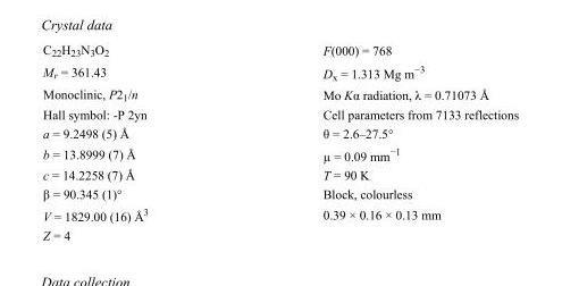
<table><tbody><tr><td>C<sub>22</sub>H<sub>23</sub>N<sub>3</sub>O<sub>2</sub></td><td>F(000) = 768</td></tr><tr><td>M<sub>r</sub> = 361.43</td><td>D<sub>x</sub> = 1.313 Mg m<sup>−3</sup></td></tr><tr><td>Monoclinic, P2<sub>1</sub>/n</td><td>Mo Kα radiation, λ = 0.71073 Å</td></tr><tr><td>Hall symbol: -P 2yn</td><td>Cell parameters from 7133 reflections</td></tr><tr><td>a = 9.2498 (5) Å</td><td>θ = 2.6–27.5°</td></tr><tr><td>b = 13.8999 (7) Å</td><td>µ = 0.09 mm<sup>−1</sup></td></tr><tr><td>c = 14.2258 (7) Å</td><td>T = 90 K</td></tr><tr><td>β = 90.345 (1)°</td><td>Block, colourless</td></tr><tr><td>V = 1829.00 (16) Å<sup>3</sup></td><td>0.39 × 0.16 × 0.13 mm</td></tr><tr><td>Z = 4</td><td></td></tr></tbody></table>